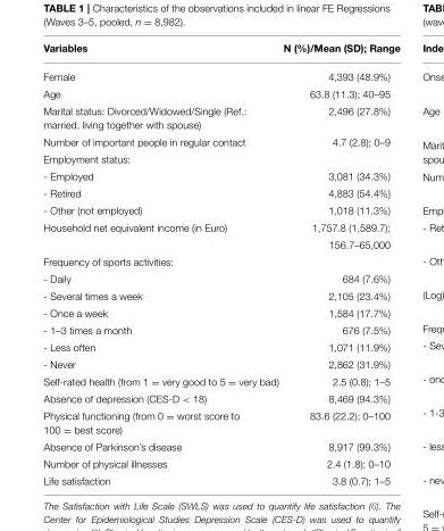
<table><thead><tr><td>Variables</td><td>N (%)/Mean (SD); Range</td></tr></thead><tbody><tr><td>Female</td><td>4,393 (48.9%)</td></tr><tr><td>Age</td><td>63.8 (11.3); 40–95</td></tr><tr><td>Marital status: Divorced/Widowed/Single (Ref.: married, living together with spouse)</td><td>2,496 (27.8%)</td></tr><tr><td>Number of important people in regular contact</td><td>4.7 (2.8); 0–9</td></tr><tr><td colspan="2">Employment status:</td></tr><tr><td>- Employed</td><td>3,081 (34.3%)</td></tr><tr><td>- Retired</td><td>4,883 (54.4%)</td></tr><tr><td>- Other (not employed)</td><td>1,018 (11.3%)</td></tr><tr><td rowspan="2">Household net equivalent income (in Euro)</td><td>1,757.8 (1,589.7);</td></tr><tr><td>156.7–65,000</td></tr><tr><td colspan="2">Frequency of sports activities:</td></tr><tr><td>- Daily</td><td>684 (7.6%)</td></tr><tr><td>- Several times a week</td><td>2,105 (23.4%)</td></tr><tr><td>- Once a week</td><td>1,584 (17.7%)</td></tr><tr><td>- 1–3 times a month</td><td>676 (7.5%)</td></tr><tr><td>- Less often</td><td>1,071 (11.9%)</td></tr><tr><td>- Never</td><td>2,862 (31.9%)</td></tr><tr><td>Self-rated health (from 1 = very good to 5 = very bad)</td><td>2.5 (0.8); 1–5</td></tr><tr><td>Absence of depression (CES-D &lt; 18)</td><td>8,469 (94.3%)</td></tr><tr><td>Physical functioning (from 0 = worst score to 100 = best score)</td><td>83.6 (22.2); 0–100</td></tr><tr><td>Absence of Parkinson’s disease</td><td>8,917 (99.3%)</td></tr><tr><td>Number of physical illnesses</td><td>2.4 (1.8); 0–10</td></tr><tr><td>Life satisfaction</td><td>3.8 (0.7); 1–5</td></tr></tbody></table>